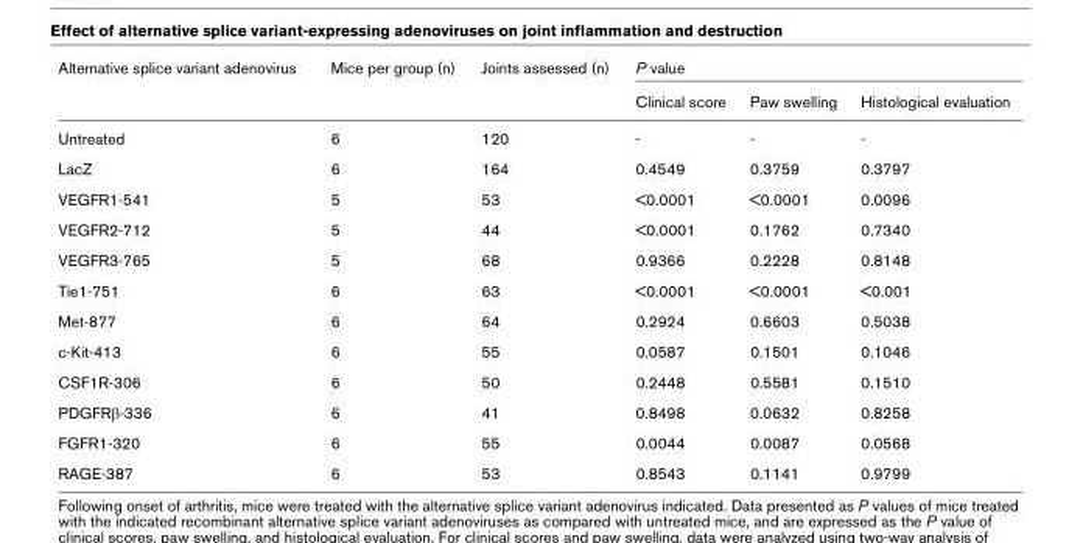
<table><thead><tr><td rowspan="2">Alternative splice variant adenovirus</td><td rowspan="2">Mice per group (n)</td><td rowspan="2">Joints assessed (n)</td><td colspan="3">P value</td></tr><tr><td>Clinical score</td><td>Paw swelling</td><td>Histological evaluation</td></tr></thead><tbody><tr><td>Untreated</td><td>6</td><td>120</td><td>-</td><td>-</td><td>-</td></tr><tr><td>LacZ</td><td>6</td><td>164</td><td>0.4549</td><td>0.3759</td><td>0.3797</td></tr><tr><td>VEGFR1-541</td><td>5</td><td>53</td><td>&lt;0.0001</td><td>&lt;0.0001</td><td>0.0096</td></tr><tr><td>VEGFR2-712</td><td>5</td><td>44</td><td>&lt;0.0001</td><td>0.1762</td><td>0.7340</td></tr><tr><td>VEGFR3-765</td><td>5</td><td>68</td><td>0.9366</td><td>0.2228</td><td>0.8148</td></tr><tr><td>Tie1-751</td><td>6</td><td>63</td><td>&lt;0.0001</td><td>&lt;0.0001</td><td>&lt;0.001</td></tr><tr><td>Met-877</td><td>6</td><td>64</td><td>0.2924</td><td>0.6603</td><td>0.5038</td></tr><tr><td>c-Kit-413</td><td>6</td><td>55</td><td>0.0587</td><td>0.1501</td><td>0.1046</td></tr><tr><td>CSF1R-306</td><td>6</td><td>50</td><td>0.2448</td><td>0.5581</td><td>0.1510</td></tr><tr><td>PDGFRβ-336</td><td>6</td><td>41</td><td>0.8498</td><td>0.0632</td><td>0.8258</td></tr><tr><td>FGFR1-320</td><td>6</td><td>55</td><td>0.0044</td><td>0.0087</td><td>0.0568</td></tr><tr><td>RAGE-387</td><td>6</td><td>53</td><td>0.8543</td><td>0.1141</td><td>0.9799</td></tr></tbody></table>